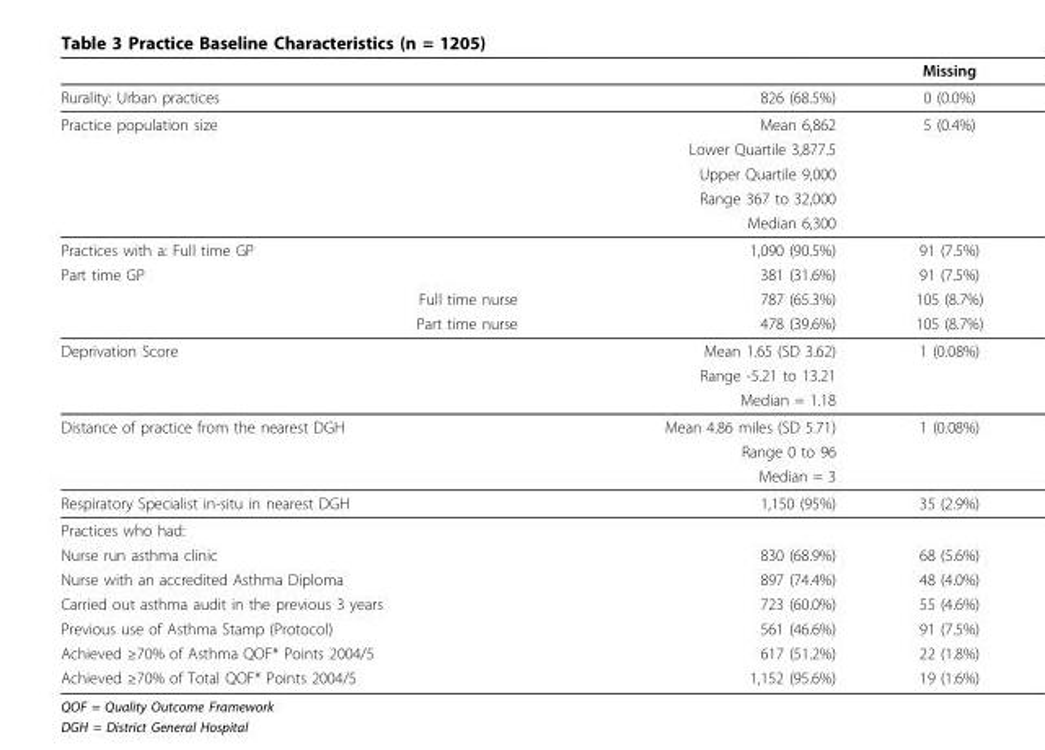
<table><thead><tr><td></td><td></td><td>Missing</td></tr></thead><tbody><tr><td>Rurality: Urban practices</td><td>826 (68.5%)</td><td>0 (0.0%)</td></tr><tr><td rowspan="5">Practice population size</td><td>Mean 6,862</td><td>5 (0.4%)</td></tr><tr><td>Lower Quartile 3,877.5</td><td></td></tr><tr><td>Upper Quartile 9,000</td><td></td></tr><tr><td>Range 367 to 32,000</td><td></td></tr><tr><td>Median 6,300</td><td></td></tr><tr><td>Practices with a: Full time GP</td><td>1,090 (90.5%)</td><td>91 (7.5%)</td></tr><tr><td>Part time GP</td><td>381 (31.6%)</td><td>91 (7.5%)</td></tr><tr><td>Full time nurse</td><td>787 (65.3%)</td><td>105 (8.7%)</td></tr><tr><td>Part time nurse</td><td>478 (39.6%)</td><td>105 (8.7%)</td></tr><tr><td rowspan="3">Deprivation Score</td><td>Mean 1.65 (SD 3.62)</td><td>1 (0.08%)</td></tr><tr><td>Range -5.21 to 13.21</td><td></td></tr><tr><td>Median = 1.18</td><td></td></tr><tr><td rowspan="3">Distance of practice from the nearest DGH</td><td>Mean 4.86 miles (SD 5.71)</td><td>1 (0.08%)</td></tr><tr><td>Range 0 to 96</td><td></td></tr><tr><td>Median = 3</td><td></td></tr><tr><td>Respiratory Specialist in-situ in nearest DGH</td><td>1,150 (95%)</td><td>35 (2.9%)</td></tr><tr><td colspan="3">Practices who had:</td></tr><tr><td>Nurse run asthma clinic</td><td>830 (68.9%)</td><td>68 (5.6%)</td></tr><tr><td>Nurse with an accredited Asthma Diploma</td><td>897 (74.4%)</td><td>48 (4.0%)</td></tr><tr><td>Carried out asthma audit in the previous 3 years</td><td>723 (60.0%)</td><td>55 (4.6%)</td></tr><tr><td>Previous use of Asthma Stamp (Protocol)</td><td>561 (46.6%)</td><td>91 (7.5%)</td></tr><tr><td>Achieved ≥70% of Asthma QOF* Points 2004/5</td><td>617 (51.2%)</td><td>22 (1.8%)</td></tr><tr><td>Achieved ≥70% of Total QOF* Points 2004/5</td><td>1,152 (95.6%)</td><td>19 (1.6%)</td></tr></tbody></table>